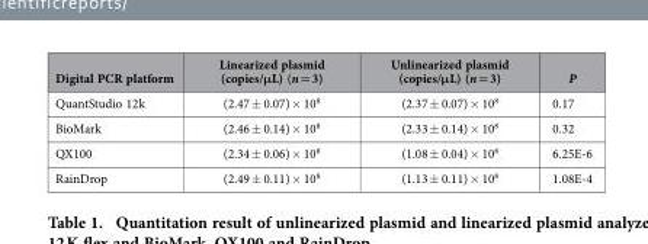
<table><thead><tr><td>Digital PCR platform</td><td>Linearized plasmid (copies/μL) (n = 3)</td><td>Unlinearized plasmid (copies/μL) (n = 3)</td><td>P</td></tr></thead><tbody><tr><td>QuantStudio 12k</td><td>(2.47 ± 0.07) × 10<sup>8</sup></td><td>(2.37 ± 0.07) × 10<sup>8</sup></td><td>0.17</td></tr><tr><td>BioMark</td><td>(2.46 ± 0.14) × 10<sup>8</sup></td><td>(2.33 ± 0.14) × 10<sup>8</sup></td><td>0.32</td></tr><tr><td>QX100</td><td>(2.34 ± 0.06) × 10<sup>8</sup></td><td>(1.08 ± 0.04) × 10<sup>8</sup></td><td>6.25E-6</td></tr><tr><td>RainDrop</td><td>(2.49 ± 0.11) × 10<sup>8</sup></td><td>(1.13 ± 0.11) × 10<sup>8</sup></td><td>1.08E-4</td></tr></tbody></table>